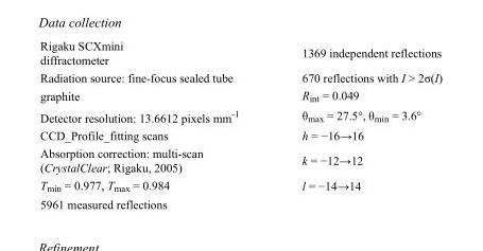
<table><tbody><tr><td>Rigaku SCXmini diffractometer</td><td>1369 independent reflections</td></tr><tr><td>Radiation source: fine-focus sealed tube</td><td>670 reflections with I &gt; 2σ(I)</td></tr><tr><td>graphite</td><td>R<sub>int</sub> = 0.049</td></tr><tr><td>Detector resolution: 13.6612 pixels mm<sup>-1</sup></td><td>θ<sub>max</sub> = 27.5°, θ<sub>min</sub> = 3.6°</td></tr><tr><td>CCD_Profile_fitting scans</td><td>h = −16→16</td></tr><tr><td>Absorption correction: multi-scan (CrystalClear; Rigaku, 2005)</td><td>k = −12→12</td></tr><tr><td>T<sub>min</sub> = 0.977, T<sub>max</sub> = 0.984</td><td>l = −14→14</td></tr><tr><td>5961 measured reflections</td><td></td></tr></tbody></table>